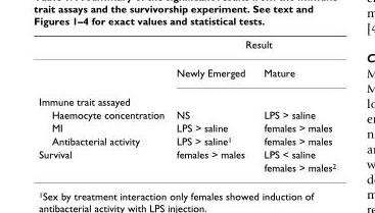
<table><thead><tr><td rowspan="2"></td><td colspan="2">Result</td></tr><tr><td>Newly Emerged</td><td>Mature</td></tr></thead><tbody><tr><td colspan="3">Immune trait assayed</td></tr><tr><td>Haemocyte concentration</td><td>NS</td><td>LPS &gt; saline</td></tr><tr><td>MI</td><td>LPS &gt; saline</td><td>females &gt; males</td></tr><tr><td>Antibacterial activity</td><td>LPS &gt; saline1</td><td>females &gt; males</td></tr><tr><td rowspan="2">Survival</td><td>females &gt; males</td><td>LPS &lt; saline</td></tr><tr><td></td><td>females &gt; males2</td></tr></tbody></table>